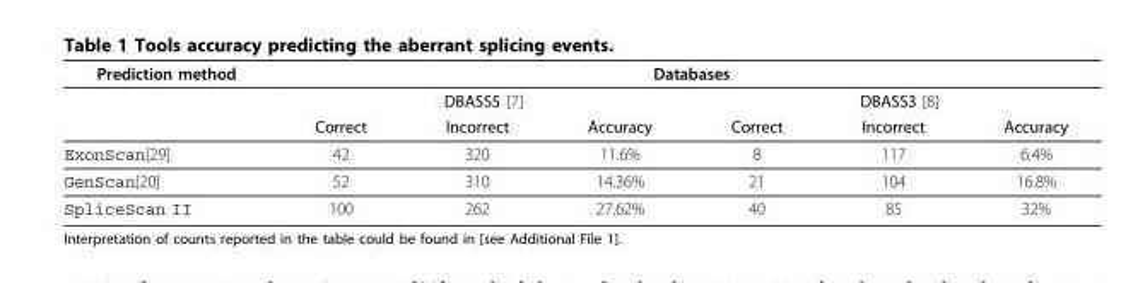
<table><thead><tr><td rowspan="3">Prediction method</td><td colspan="6">Databases</td></tr><tr><td colspan="3">DBASS5 [7]</td><td colspan="3">DBASS3 [8]</td></tr><tr><td>Correct</td><td>Incorrect</td><td>Accuracy</td><td>Correct</td><td>Incorrect</td><td>Accuracy</td></tr></thead><tbody><tr><td>ExonScan[29]</td><td>42</td><td>320</td><td>11.6%</td><td>8</td><td>117</td><td>6.4%</td></tr><tr><td>GenScan[20]</td><td>52</td><td>310</td><td>14.36%</td><td>21</td><td>104</td><td>16.8%</td></tr><tr><td>SpliceScan II</td><td>100</td><td>262</td><td>27.62%</td><td>40</td><td>85</td><td>32%</td></tr></tbody></table>